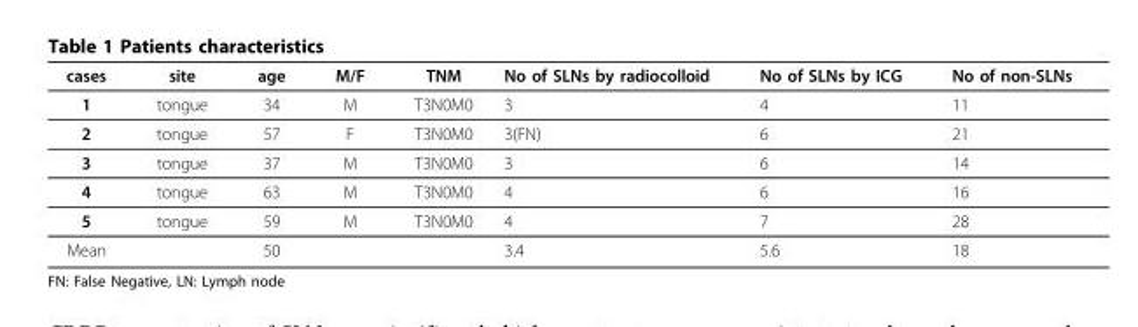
<table><thead><tr><td>cases</td><td>site</td><td>age</td><td>M/F</td><td>TNM</td><td>No of SLNs by radiocolloid</td><td>No of SLNs by ICG</td><td>No of non-SLNs</td></tr></thead><tbody><tr><td>1</td><td>tongue</td><td>34</td><td>M</td><td>T3N0M0</td><td>3</td><td>4</td><td>11</td></tr><tr><td>2</td><td>tongue</td><td>57</td><td>F</td><td>T3N0M0</td><td>3(FN)</td><td>6</td><td>21</td></tr><tr><td>3</td><td>tongue</td><td>37</td><td>M</td><td>T3N0M0</td><td>3</td><td>6</td><td>14</td></tr><tr><td>4</td><td>tongue</td><td>63</td><td>M</td><td>T3N0M0</td><td>4</td><td>6</td><td>16</td></tr><tr><td>5</td><td>tongue</td><td>59</td><td>M</td><td>T3N0M0</td><td>4</td><td>7</td><td>28</td></tr><tr><td>Mean</td><td></td><td>50</td><td></td><td></td><td>3.4</td><td>5.6</td><td>18</td></tr></tbody></table>